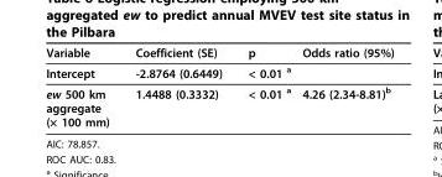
<table><thead><tr><td>Variable</td><td>Coefficient (SE)</td><td>p</td><td>Odds ratio (95%)</td></tr></thead><tbody><tr><td>Intercept</td><td>-2.8764 (0.6449)</td><td>&lt; 0.01 <sup>a</sup></td><td></td></tr><tr><td>ew 500 km aggregate (× 100 mm)</td><td>1.4488 (0.3332)</td><td>&lt; 0.01 <sup>a</sup></td><td>4.26 (2.34-8.81)<sup>b</sup></td></tr></tbody></table>